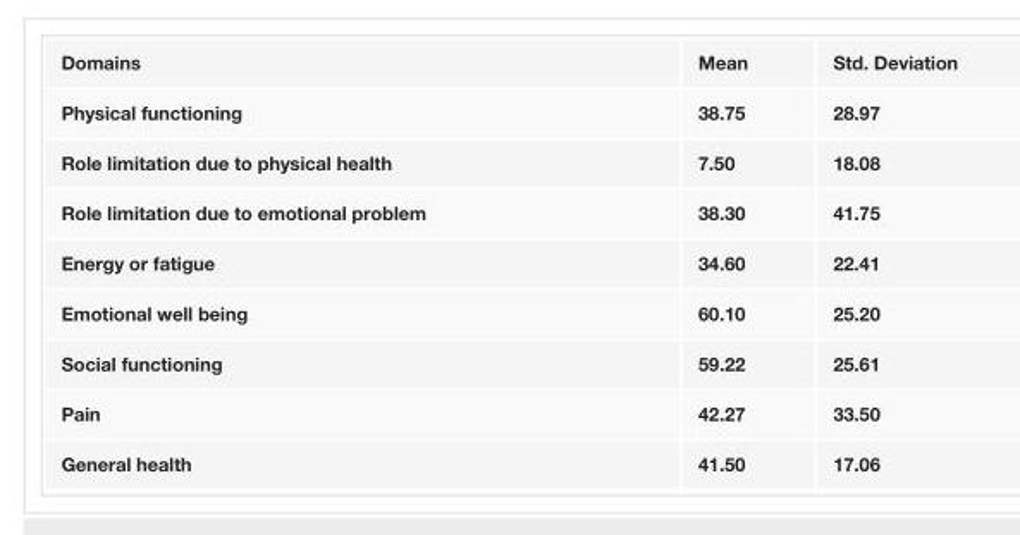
<table><tbody><tr><td>Domains</td><td>Mean</td><td>Std. Deviation</td></tr><tr><td>Physical functioning</td><td>38.75</td><td>28.97</td></tr><tr><td>Role limitation due to physical health</td><td>7.50</td><td>18.08</td></tr><tr><td>Role limitation due to emotional problem</td><td>38.30</td><td>41.75</td></tr><tr><td>Energy or fatigue</td><td>34.60</td><td>22.41</td></tr><tr><td>Emotional well being</td><td>60.10</td><td>25.20</td></tr><tr><td>Social functioning</td><td>59.22</td><td>25.61</td></tr><tr><td>Pain</td><td>42.27</td><td>33.50</td></tr><tr><td>General health</td><td>41.50</td><td>17.06</td></tr></tbody></table>